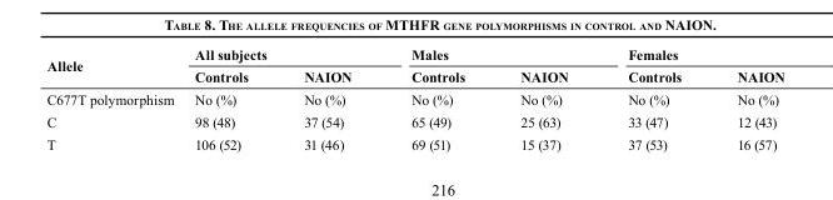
<table><thead><tr><td rowspan="2">Allele</td><td colspan="2">All subjects</td><td colspan="2">Males</td><td colspan="2">Females</td></tr><tr><td>Controls</td><td>NAION</td><td>Controls</td><td>NAION</td><td>Controls</td><td>NAION</td></tr></thead><tbody><tr><td>C677T polymorphism</td><td>No (%)</td><td>No (%)</td><td>No (%)</td><td>No (%)</td><td>No (%)</td><td>No (%)</td></tr><tr><td>C</td><td>98 (48)</td><td>37 (54)</td><td>65 (49)</td><td>25 (63)</td><td>33 (47)</td><td>12 (43)</td></tr><tr><td>T</td><td>106 (52)</td><td>31 (46)</td><td>69 (51)</td><td>15 (37)</td><td>37 (53)</td><td>16 (57)</td></tr></tbody></table>